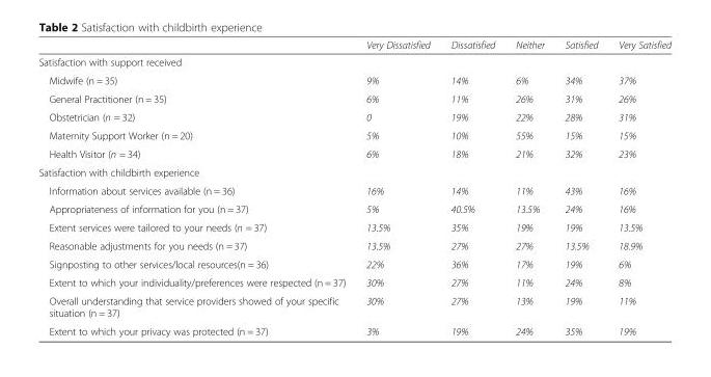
<table><thead><tr><td></td><td>Very Dissatisfied</td><td>Dissatisfied</td><td>Neither</td><td>Satisfied</td><td>Very Satisfied</td></tr></thead><tbody><tr><td colspan="6">Satisfaction with support received</td></tr><tr><td>Midwife (n = 35)</td><td>9%</td><td>14%</td><td>6%</td><td>34%</td><td>37%</td></tr><tr><td>General Practitioner (n = 35)</td><td>6%</td><td>11%</td><td>26%</td><td>31%</td><td>26%</td></tr><tr><td>Obstetrician (n = 32)</td><td>0</td><td>19%</td><td>22%</td><td>28%</td><td>31%</td></tr><tr><td>Maternity Support Worker (n = 20)</td><td>5%</td><td>10%</td><td>55%</td><td>15%</td><td>15%</td></tr><tr><td>Health Visitor (n = 34)</td><td>6%</td><td>18%</td><td>21%</td><td>32%</td><td>23%</td></tr><tr><td colspan="6">Satisfaction with childbirth experience</td></tr><tr><td>Information about services available (n = 36)</td><td>16%</td><td>14%</td><td>11%</td><td>43%</td><td>16%</td></tr><tr><td>Appropriateness of information for you (n = 37)</td><td>5%</td><td>40.5%</td><td>13.5%</td><td>24%</td><td>16%</td></tr><tr><td>Extent services were tailored to your needs (n = 37)</td><td>13.5%</td><td>35%</td><td>19%</td><td>19%</td><td>13.5%</td></tr><tr><td>Reasonable adjustments for you needs (n = 37)</td><td>13.5%</td><td>27%</td><td>27%</td><td>13.5%</td><td>18.9%</td></tr><tr><td>Signposting to other services/local resources(n = 36)</td><td>22%</td><td>36%</td><td>17%</td><td>19%</td><td>6%</td></tr><tr><td>Extent to which your individuality/preferences were respected (n = 37)</td><td>30%</td><td>27%</td><td>11%</td><td>24%</td><td>8%</td></tr><tr><td>Overall understanding that service providers showed of your specific situation (n = 37)</td><td>30%</td><td>27%</td><td>13%</td><td>19%</td><td>11%</td></tr><tr><td>Extent to which your privacy was protected (n = 37)</td><td>3%</td><td>19%</td><td>24%</td><td>35%</td><td>19%</td></tr></tbody></table>